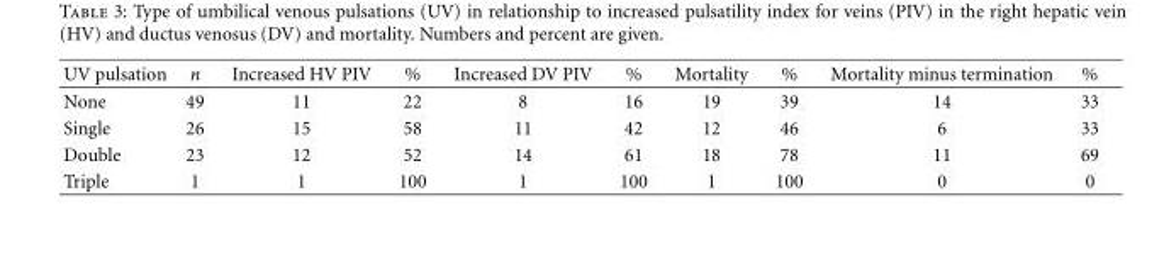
<table><thead><tr><td>UV pulsation</td><td>n</td><td>Increased HV PIV</td><td>%</td><td>Increased DV PIV</td><td>%</td><td>Mortality</td><td>%</td><td>Mortality minus termination</td><td>%</td></tr></thead><tbody><tr><td>None</td><td>49</td><td>11</td><td>22</td><td>8</td><td>16</td><td>19</td><td>39</td><td>14</td><td>33</td></tr><tr><td>Single</td><td>26</td><td>15</td><td>58</td><td>11</td><td>42</td><td>12</td><td>46</td><td>6</td><td>33</td></tr><tr><td>Double</td><td>23</td><td>12</td><td>52</td><td>14</td><td>61</td><td>18</td><td>78</td><td>11</td><td>69</td></tr><tr><td>Triple</td><td>1</td><td>1</td><td>100</td><td>1</td><td>100</td><td>1</td><td>100</td><td>0</td><td>0</td></tr></tbody></table>